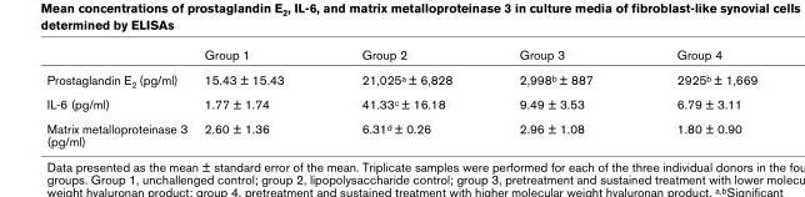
<table><thead><tr><td></td><td>Group 1</td><td>Group 2</td><td>Group 3</td><td>Group 4</td></tr></thead><tbody><tr><td>Prostaglandin E2 (pg/ml)</td><td>15.43 ± 15.43</td><td>21,025a ± 6,828</td><td>2,998b ± 887</td><td>2925b ± 1,669</td></tr><tr><td>IL-6 (pg/ml)</td><td>1.77 ± 1.74</td><td>41.33c ± 16.18</td><td>9.49 ± 3.53</td><td>6.79 ± 3.11</td></tr><tr><td>Matrix metalloproteinase 3 (pg/ml)</td><td>2.60 ± 1.36</td><td>6.31d ± 0.26</td><td>2.96 ± 1.08</td><td>1.80 ± 0.90</td></tr></tbody></table>